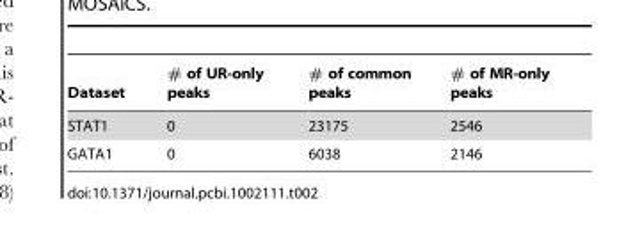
<table><thead><tr><td>Dataset</td><td># of UR-only peaks</td><td># of common peaks</td><td># of MR-only peaks</td></tr></thead><tbody><tr><td>STAT1</td><td>0</td><td>23175</td><td>2546</td></tr><tr><td>GATA1</td><td>0</td><td>6038</td><td>2146</td></tr></tbody></table>